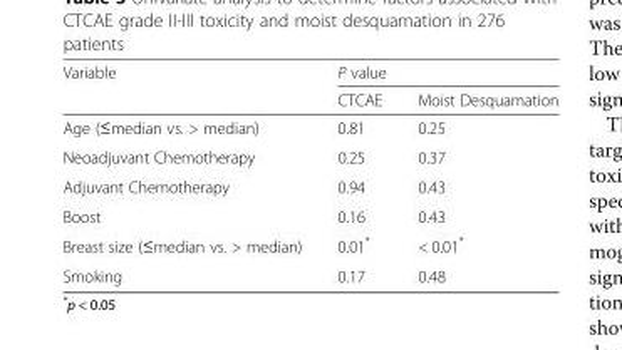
<table><thead><tr><td rowspan="2">Variable</td><td colspan="2">P value</td></tr><tr><td>CTCAE</td><td>Moist Desquamation</td></tr></thead><tbody><tr><td>Age (≤median vs. &gt; median)</td><td>0.81</td><td>0.25</td></tr><tr><td>Neoadjuvant Chemotherapy</td><td>0.25</td><td>0.37</td></tr><tr><td>Adjuvant Chemotherapy</td><td>0.94</td><td>0.43</td></tr><tr><td>Boost</td><td>0.16</td><td>0.43</td></tr><tr><td>Breast size (≤median vs. &gt; median)</td><td>0.01*</td><td>&lt; 0.01*</td></tr><tr><td>Smoking</td><td>0.17</td><td>0.48</td></tr></tbody></table>